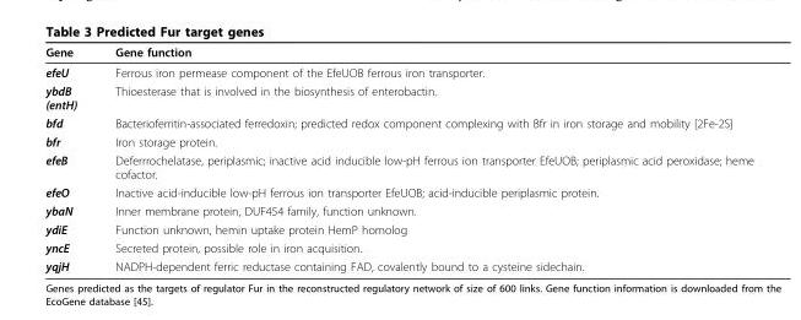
<table><thead><tr><td>Gene</td><td>Gene function</td></tr></thead><tbody><tr><td>efeU</td><td>Ferrous iron permease component of the EfeUOB ferrous iron transporter.</td></tr><tr><td>ybdB (entH)</td><td>Thioesterase that is involved in the biosynthesis of enterobactin.</td></tr><tr><td>bfd</td><td>Bacterioferritin-associated ferredoxin; predicted redox component complexing with Bfr in iron storage and mobility [2Fe-2S]</td></tr><tr><td>bfr</td><td>Iron storage protein.</td></tr><tr><td>efeB</td><td>Deferrrochelatase, periplasmic; inactive acid inducible low-pH ferrous ion transporter EfeUOB; periplasmic acid peroxidase; heme cofactor.</td></tr><tr><td>efeO</td><td>Inactive acid-inducible low-pH ferrous ion transporter EfeUOB; acid-inducible periplasmic protein.</td></tr><tr><td>ybaN</td><td>Inner membrane protein, DUF454 family, function unknown.</td></tr><tr><td>ydiE</td><td>Function unknown, hemin uptake protein HemP homolog</td></tr><tr><td>yncE</td><td>Secreted protein, possible role in iron acquisition.</td></tr><tr><td>yqjH</td><td>NADPH-dependent ferric reductase containing FAD, covalently bound to a cysteine sidechain.</td></tr></tbody></table>